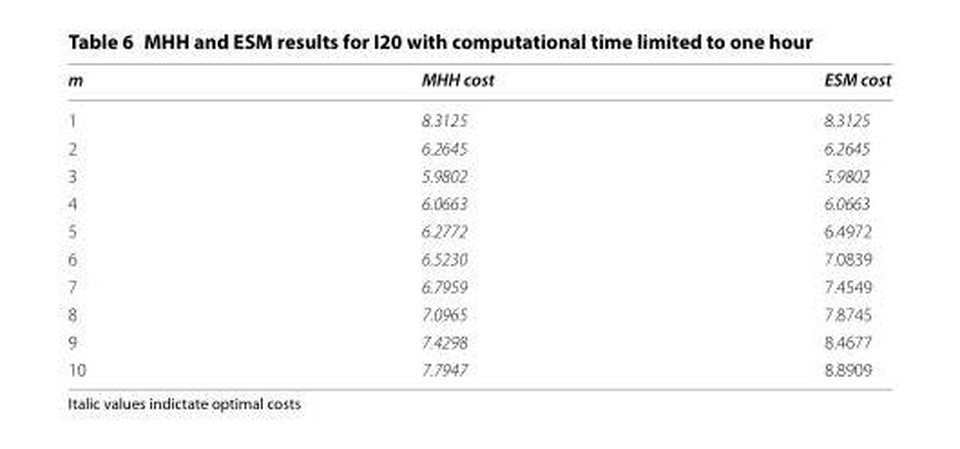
<table><thead><tr><td>m</td><td>MHH cost</td><td>ESM cost</td></tr></thead><tbody><tr><td>1</td><td>8.3125</td><td>8.3125</td></tr><tr><td>2</td><td>6.2645</td><td>6.2645</td></tr><tr><td>3</td><td>5.9802</td><td>5.9802</td></tr><tr><td>4</td><td>6.0663</td><td>6.0663</td></tr><tr><td>5</td><td>6.2772</td><td>6.4972</td></tr><tr><td>6</td><td>6.5230</td><td>7.0839</td></tr><tr><td>7</td><td>6.7959</td><td>7.4549</td></tr><tr><td>8</td><td>7.0965</td><td>7.8745</td></tr><tr><td>9</td><td>7.4298</td><td>8.4677</td></tr><tr><td>10</td><td>7.7947</td><td>8.8909</td></tr></tbody></table>